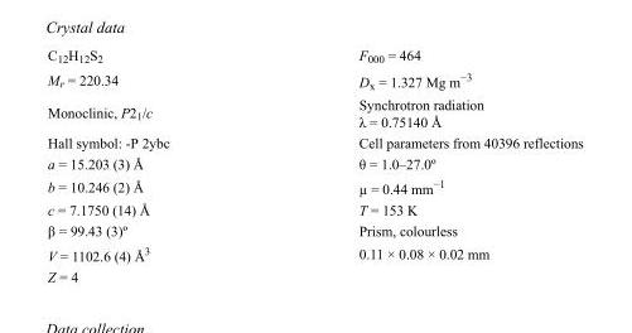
<table><tbody><tr><td>C<sub>12</sub>H<sub>12</sub>S<sub>2</sub></td><td>F000 = 464</td></tr><tr><td>M<sub>r</sub> = 220.34</td><td>D<sub>x</sub> = 1.327 Mg m<sup>−3</sup></td></tr><tr><td>Monoclinic, P2<sub>1</sub>/c</td><td>Synchrotron radiation λ = 0.75140 Å</td></tr><tr><td>Hall symbol: -P 2ybc</td><td>Cell parameters from 40396 reflections</td></tr><tr><td>a = 15.203 (3) Å</td><td>θ = 1.0–27.0º</td></tr><tr><td>b = 10.246 (2) Å</td><td>µ = 0.44 mm<sup>−1</sup></td></tr><tr><td>c = 7.1750 (14) Å</td><td>T = 153 K</td></tr><tr><td>β = 99.43 (3)º</td><td>Prism, colourless</td></tr><tr><td>V = 1102.6 (4) Å<sup>3</sup></td><td>0.11 × 0.08 × 0.02 mm</td></tr><tr><td>Z = 4</td><td></td></tr></tbody></table>